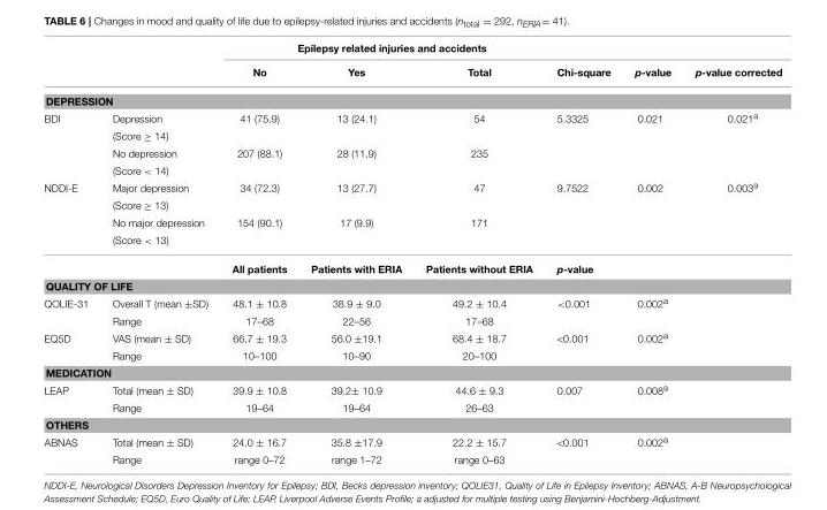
<table><thead><tr><td rowspan="2"></td><td rowspan="2"></td><td colspan="6">Epilepsy related injuries and accidents</td></tr><tr><td>No</td><td>Yes</td><td>Total</td><td>Chi-square</td><td>p-value</td><td>p-value corrected</td></tr></thead><tbody><tr><td colspan="8">DEPRESSION</td></tr><tr><td rowspan="4">BDI</td><td>Depression</td><td>41 (75.9)</td><td>13 (24.1)</td><td>54</td><td>5.3325</td><td>0.021</td><td>0.021<sup>a</sup></td></tr><tr><td>(Score ≥ 14)</td><td></td><td></td><td></td><td></td><td></td><td></td></tr><tr><td>No depression</td><td>207 (88.1)</td><td>28 (11.9)</td><td>235</td><td></td><td></td><td></td></tr><tr><td>(Score &lt; 14)</td><td></td><td></td><td></td><td></td><td></td><td></td></tr><tr><td rowspan="5">NDDI-E</td><td>Major depression</td><td>34 (72.3)</td><td>13 (27.7)</td><td>47</td><td>9.7522</td><td>0.002</td><td>0.003<sup>a</sup></td></tr><tr><td>(Score ≥ 13)</td><td></td><td></td><td></td><td></td><td></td><td></td></tr><tr><td>No major depression</td><td>154 (90.1)</td><td>17 (9.9)</td><td>171</td><td></td><td></td><td></td></tr><tr><td>(Score &lt; 13)</td><td></td><td></td><td></td><td></td><td></td><td></td></tr><tr><td></td><td>All patients</td><td>Patients with ERIA</td><td>Patients without ERIA</td><td>p-value</td><td></td><td></td></tr><tr><td colspan="8">QUALITY OF LIFE</td></tr><tr><td rowspan="2">QOLIE-31</td><td>Overall T (mean ±SD)</td><td>48.1 ± 10.8</td><td>38.9 ± 9.0</td><td>49.2 ± 10.4</td><td>&lt;0.001</td><td>0.002<sup>a</sup></td><td></td></tr><tr><td>Range</td><td>17–68</td><td>22–56</td><td>17–68</td><td></td><td></td><td></td></tr><tr><td rowspan="2">EQ5D</td><td>VAS (mean ± SD)</td><td>66.7 ± 19.3</td><td>56.0 ±19.1</td><td>68.4 ± 18.7</td><td>&lt;0.001</td><td>0.002<sup>a</sup></td><td></td></tr><tr><td>Range</td><td>10–100</td><td>10–90</td><td>20–100</td><td></td><td></td><td></td></tr><tr><td colspan="8">MEDICATION</td></tr><tr><td rowspan="2">LEAP</td><td>Total (mean ± SD)</td><td>39.9 ± 10.8</td><td>39.2± 10.9</td><td>44.6 ± 9.3</td><td>0.007</td><td>0.008<sup>a</sup></td><td></td></tr><tr><td>Range</td><td>19–64</td><td>19–64</td><td>26–63</td><td></td><td></td><td></td></tr><tr><td colspan="8">OTHERS</td></tr><tr><td rowspan="2">ABNAS</td><td>Total (mean ± SD)</td><td>24.0 ± 16.7</td><td>35.8 ±17.9</td><td>22.2 ± 15.7</td><td>&lt;0.001</td><td>0.002<sup>a</sup></td><td></td></tr><tr><td>Range</td><td>range 0–72</td><td>range 1–72</td><td>range 0–63</td><td></td><td></td><td></td></tr></tbody></table>